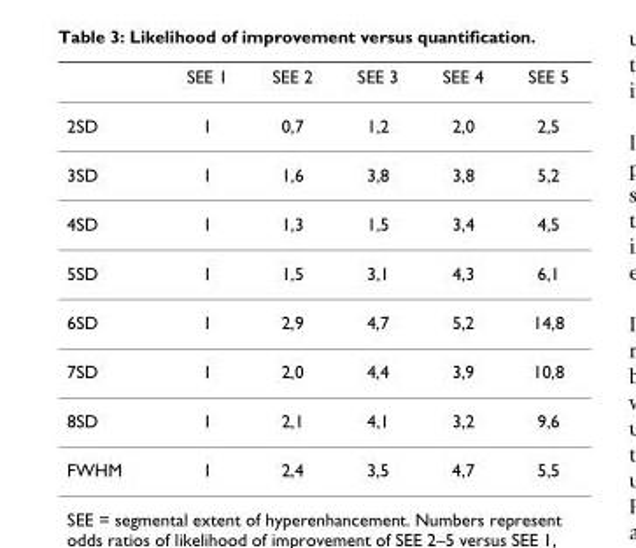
<table><thead><tr><td></td><td>SEE 1</td><td>SEE 2</td><td>SEE 3</td><td>SEE 4</td><td>SEE 5</td></tr></thead><tbody><tr><td>2SD</td><td>1</td><td>0,7</td><td>1,2</td><td>2,0</td><td>2,5</td></tr><tr><td>3SD</td><td>1</td><td>1,6</td><td>3,8</td><td>3,8</td><td>5,2</td></tr><tr><td>4SD</td><td>1</td><td>1,3</td><td>1,5</td><td>3,4</td><td>4,5</td></tr><tr><td>5SD</td><td>1</td><td>1,5</td><td>3,1</td><td>4,3</td><td>6,1</td></tr><tr><td>6SD</td><td>1</td><td>2,9</td><td>4,7</td><td>5,2</td><td>14,8</td></tr><tr><td>7SD</td><td>1</td><td>2,0</td><td>4,4</td><td>3,9</td><td>10,8</td></tr><tr><td>8SD</td><td>1</td><td>2,1</td><td>4,1</td><td>3,2</td><td>9,6</td></tr><tr><td>FWHM</td><td>1</td><td>2,4</td><td>3,5</td><td>4,7</td><td>5,5</td></tr></tbody></table>